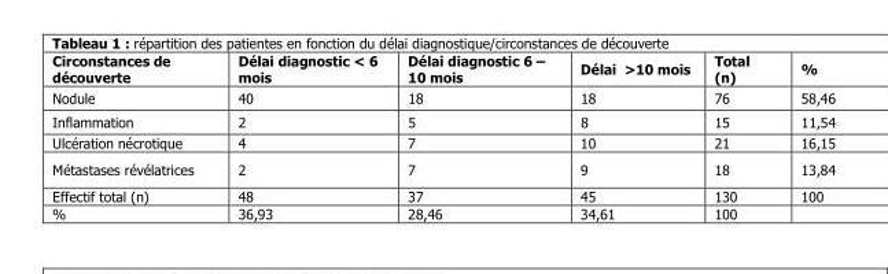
<table><thead><tr><td>Circonstances de découverte</td><td>Délai diagnostic &lt; 6 mois</td><td>Délai diagnostic 6 – 10 mois</td><td>Délai &gt;10 mois</td><td>Total (n)</td><td>%</td></tr></thead><tbody><tr><td>Nodule</td><td>40</td><td>18</td><td>18</td><td>76</td><td>58,46</td></tr><tr><td>Inflammation</td><td>2</td><td>5</td><td>8</td><td>15</td><td>11,54</td></tr><tr><td>Ulcération nécrotique</td><td>4</td><td>7</td><td>10</td><td>21</td><td>16,15</td></tr><tr><td>Métastases révélatrices</td><td>2</td><td>7</td><td>9</td><td>18</td><td>13,84</td></tr><tr><td>Effectif total (n)</td><td>48</td><td>37</td><td>45</td><td>130</td><td>100</td></tr><tr><td>%</td><td>36,93</td><td>28,46</td><td>34,61</td><td>100</td><td></td></tr></tbody></table>